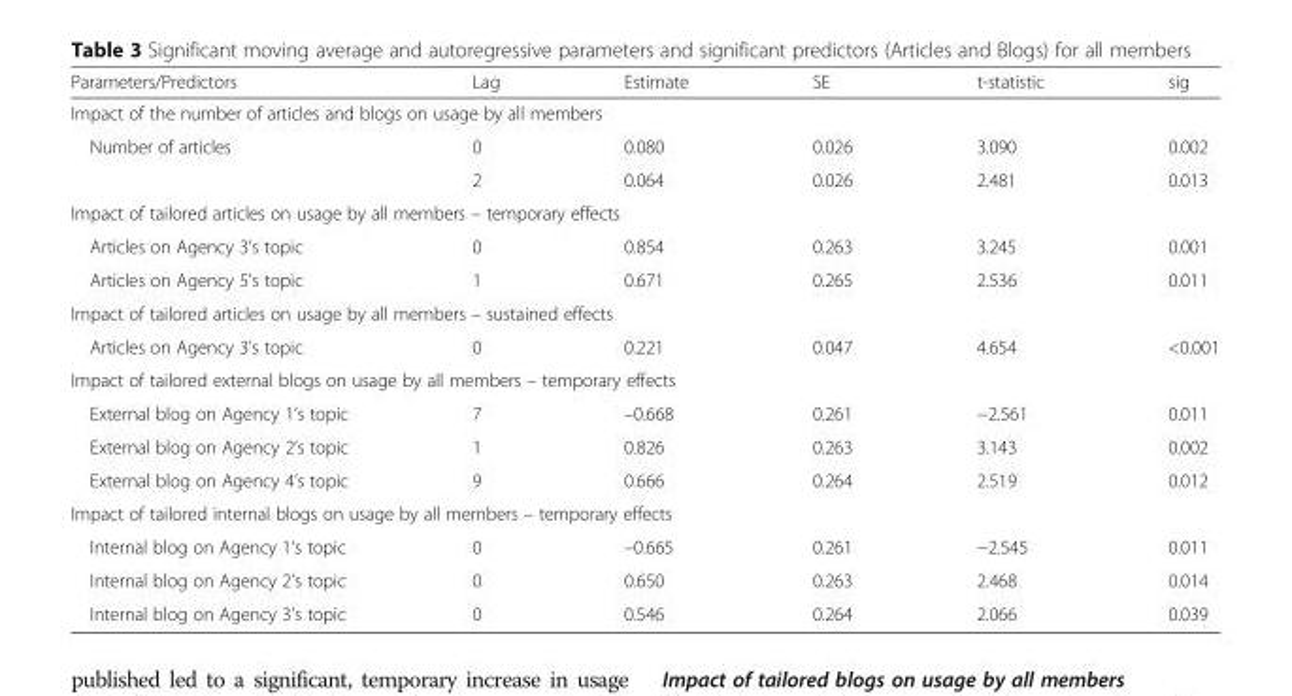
<table><thead><tr><td>Parameters/Predictors</td><td>Lag</td><td>Estimate</td><td>SE</td><td>t-statistic</td><td>sig</td></tr></thead><tbody><tr><td colspan="6">Impact of the number of articles and blogs on usage by all members</td></tr><tr><td rowspan="2">Number of articles</td><td>0</td><td>0.080</td><td>0.026</td><td>3.090</td><td>0.002</td></tr><tr><td>2</td><td>0.064</td><td>0.026</td><td>2.481</td><td>0.013</td></tr><tr><td colspan="6">Impact of tailored articles on usage by all members – temporary effects</td></tr><tr><td>Articles on Agency 3’s topic</td><td>0</td><td>0.854</td><td>0.263</td><td>3.245</td><td>0.001</td></tr><tr><td>Articles on Agency 5’s topic</td><td>1</td><td>0.671</td><td>0.265</td><td>2.536</td><td>0.011</td></tr><tr><td colspan="6">Impact of tailored articles on usage by all members – sustained effects</td></tr><tr><td>Articles on Agency 3’s topic</td><td>0</td><td>0.221</td><td>0.047</td><td>4.654</td><td>&lt;0.001</td></tr><tr><td colspan="6">Impact of tailored external blogs on usage by all members – temporary effects</td></tr><tr><td>External blog on Agency 1’s topic</td><td>7</td><td>–0.668</td><td>0.261</td><td>−2.561</td><td>0.011</td></tr><tr><td>External blog on Agency 2’s topic</td><td>1</td><td>0.826</td><td>0.263</td><td>3.143</td><td>0.002</td></tr><tr><td>External blog on Agency 4’s topic</td><td>9</td><td>0.666</td><td>0.264</td><td>2.519</td><td>0.012</td></tr><tr><td colspan="6">Impact of tailored internal blogs on usage by all members – temporary effects</td></tr><tr><td>Internal blog on Agency 1‘s topic</td><td>0</td><td>–0.665</td><td>0.261</td><td>−2.545</td><td>0.011</td></tr><tr><td>Internal blog on Agency 2’s topic</td><td>0</td><td>0.650</td><td>0.263</td><td>2.468</td><td>0.014</td></tr><tr><td>Internal blog on Agency 3’s topic</td><td>0</td><td>0.546</td><td>0.264</td><td>2.066</td><td>0.039</td></tr></tbody></table>